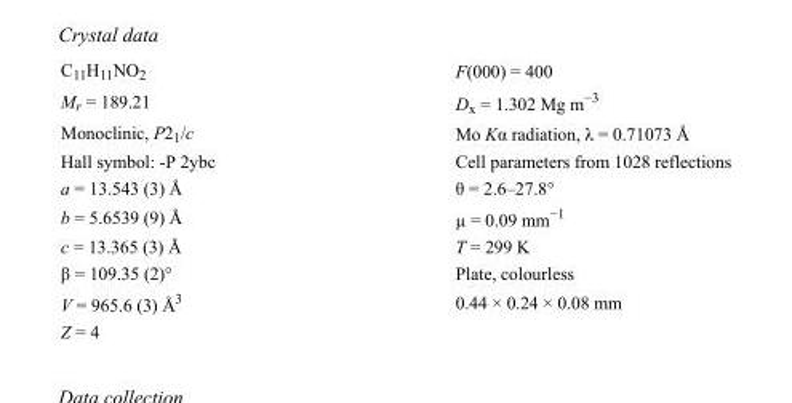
<table><tbody><tr><td>C<sub>11</sub>H<sub>11</sub>NO<sub>2</sub></td><td>F(000) = 400</td></tr><tr><td>M<sub>r</sub> = 189.21</td><td>D<sub>x</sub> = 1.302 Mg m<sup>−3</sup></td></tr><tr><td>Monoclinic, P2<sub>1</sub>/c</td><td>Mo Kα radiation, λ = 0.71073 Å</td></tr><tr><td>Hall symbol: -P 2ybc</td><td>Cell parameters from 1028 reflections</td></tr><tr><td>a = 13.543 (3) Å</td><td>θ = 2.6–27.8°</td></tr><tr><td>b = 5.6539 (9) Å</td><td>µ = 0.09 mm<sup>−1</sup></td></tr><tr><td>c = 13.365 (3) Å</td><td>T = 299 K</td></tr><tr><td>β = 109.35 (2)°</td><td>Plate, colourless</td></tr><tr><td>V = 965.6 (3) Å<sup>3</sup></td><td>0.44 × 0.24 × 0.08 mm</td></tr><tr><td>Z = 4</td><td></td></tr></tbody></table>